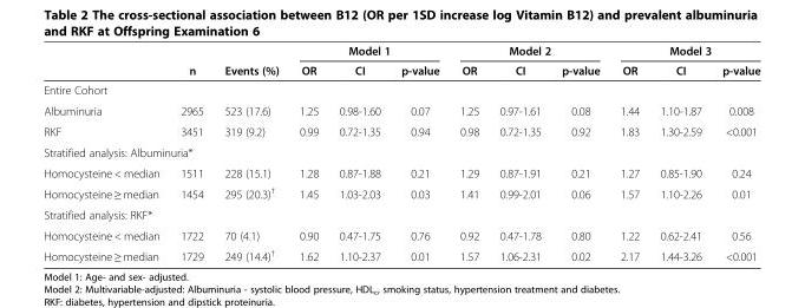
<table><thead><tr><td rowspan="2"></td><td rowspan="2">n</td><td rowspan="2">Events (%)</td><td colspan="3">Model 1</td><td colspan="3">Model 2</td><td colspan="3">Model 3</td></tr><tr><td>OR</td><td>CI</td><td>p-value</td><td>OR</td><td>CI</td><td>p-value</td><td>OR</td><td>CI</td><td>p-value</td></tr></thead><tbody><tr><td colspan="12">Entire Cohort</td></tr><tr><td>Albuminuria</td><td>2965</td><td>523 (17.6)</td><td>1.25</td><td>0.98-1.60</td><td>0.07</td><td>1.25</td><td>0.97-1.61</td><td>0.08</td><td>1.44</td><td>1.10-1.87</td><td>0.008</td></tr><tr><td>RKF</td><td>3451</td><td>319 (9.2)</td><td>0.99</td><td>0.72-1.35</td><td>0.94</td><td>0.98</td><td>0.72-1.35</td><td>0.92</td><td>1.83</td><td>1.30-2.59</td><td>&lt;0.001</td></tr><tr><td colspan="12">Stratified analysis: Albuminuria*</td></tr><tr><td>Homocysteine &lt; median</td><td>1511</td><td>228 (15.1)</td><td>1.28</td><td>0.87-1.88</td><td>0.21</td><td>1.29</td><td>0.87-1.91</td><td>0.21</td><td>1.27</td><td>0.85-1.90</td><td>0.24</td></tr><tr><td>Homocysteine ≥ median</td><td>1454</td><td>295 (20.3)<sup>†</sup></td><td>1.45</td><td>1.03-2.03</td><td>0.03</td><td>1.41</td><td>0.99-2.01</td><td>0.06</td><td>1.57</td><td>1.10-2.26</td><td>0.01</td></tr><tr><td colspan="12">Stratified analysis: RKF*</td></tr><tr><td>Homocysteine &lt; median</td><td>1722</td><td>70 (4.1)</td><td>0.90</td><td>0.47-1.75</td><td>0.76</td><td>0.92</td><td>0.47-1.78</td><td>0.80</td><td>1.22</td><td>0.62-2.41</td><td>0.56</td></tr><tr><td>Homocysteine ≥ median</td><td>1729</td><td>249 (14.4)<sup>†</sup></td><td>1.62</td><td>1.10-2.37</td><td>0.01</td><td>1.57</td><td>1.06-2.31</td><td>0.02</td><td>2.17</td><td>1.44-3.26</td><td>&lt;0.001</td></tr></tbody></table>